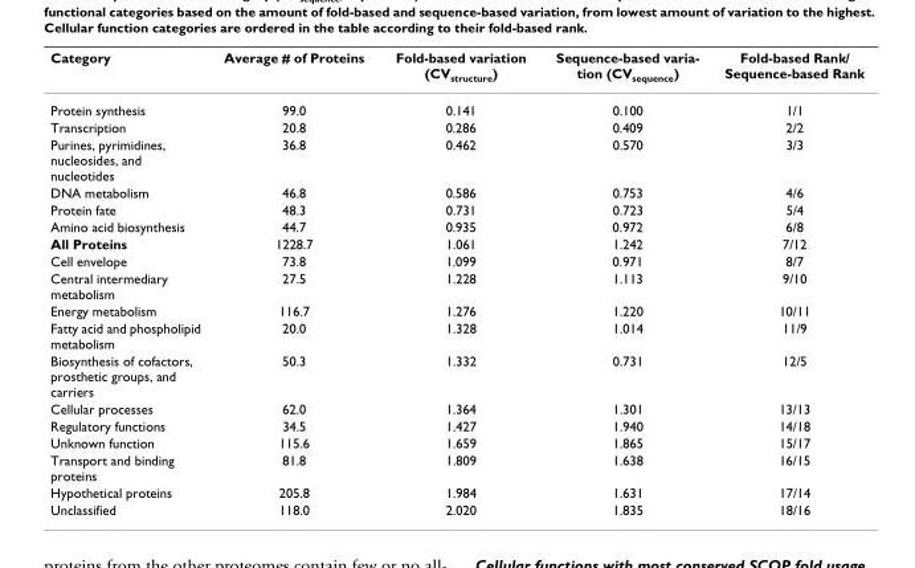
<table><thead><tr><td>Category</td><td>Average # of Proteins</td><td>Fold-based variation (CVstructure)</td><td>Sequence-based varia- tion (CVsequence)</td><td>Fold-based Rank/ Sequence-based Rank</td></tr></thead><tbody><tr><td>Protein synthesis</td><td>99.0</td><td>0.141</td><td>0.100</td><td>1/1</td></tr><tr><td>Transcription</td><td>20.8</td><td>0.286</td><td>0.409</td><td>2/2</td></tr><tr><td>Purines, pyrimidines, nucleosides, and nucleotides</td><td>36.8</td><td>0.462</td><td>0.570</td><td>3/3</td></tr><tr><td>DNA metabolism</td><td>46.8</td><td>0.586</td><td>0.753</td><td>4/6</td></tr><tr><td>Protein fate</td><td>48.3</td><td>0.731</td><td>0.723</td><td>5/4</td></tr><tr><td>Amino acid biosynthesis</td><td>44.7</td><td>0.935</td><td>0.972</td><td>6/8</td></tr><tr><td>All Proteins</td><td>1228.7</td><td>1.061</td><td>1.242</td><td>7/12</td></tr><tr><td>Cell envelope</td><td>73.8</td><td>1.099</td><td>0.971</td><td>8/7</td></tr><tr><td>Central intermediary metabolism</td><td>27.5</td><td>1.228</td><td>1.113</td><td>9/10</td></tr><tr><td>Energy metabolism</td><td>116.7</td><td>1.276</td><td>1.220</td><td>10/11</td></tr><tr><td>Fatty acid and phospholipid metabolism</td><td>20.0</td><td>1.328</td><td>1.014</td><td>11/9</td></tr><tr><td>Biosynthesis of cofactors, prosthetic groups, and carriers</td><td>50.3</td><td>1.332</td><td>0.731</td><td>12/5</td></tr><tr><td>Cellular processes</td><td>62.0</td><td>1.364</td><td>1.301</td><td>13/13</td></tr><tr><td>Regulatory functions</td><td>34.5</td><td>1.427</td><td>1.940</td><td>14/18</td></tr><tr><td>Unknown function</td><td>115.6</td><td>1.659</td><td>1.865</td><td>15/17</td></tr><tr><td>Transport and binding proteins</td><td>81.8</td><td>1.809</td><td>1.638</td><td>16/15</td></tr><tr><td>Hypothetical proteins</td><td>205.8</td><td>1.984</td><td>1.631</td><td>17/14</td></tr><tr><td>Unclassified</td><td>118.0</td><td>2.020</td><td>1.835</td><td>18/16</td></tr></tbody></table>